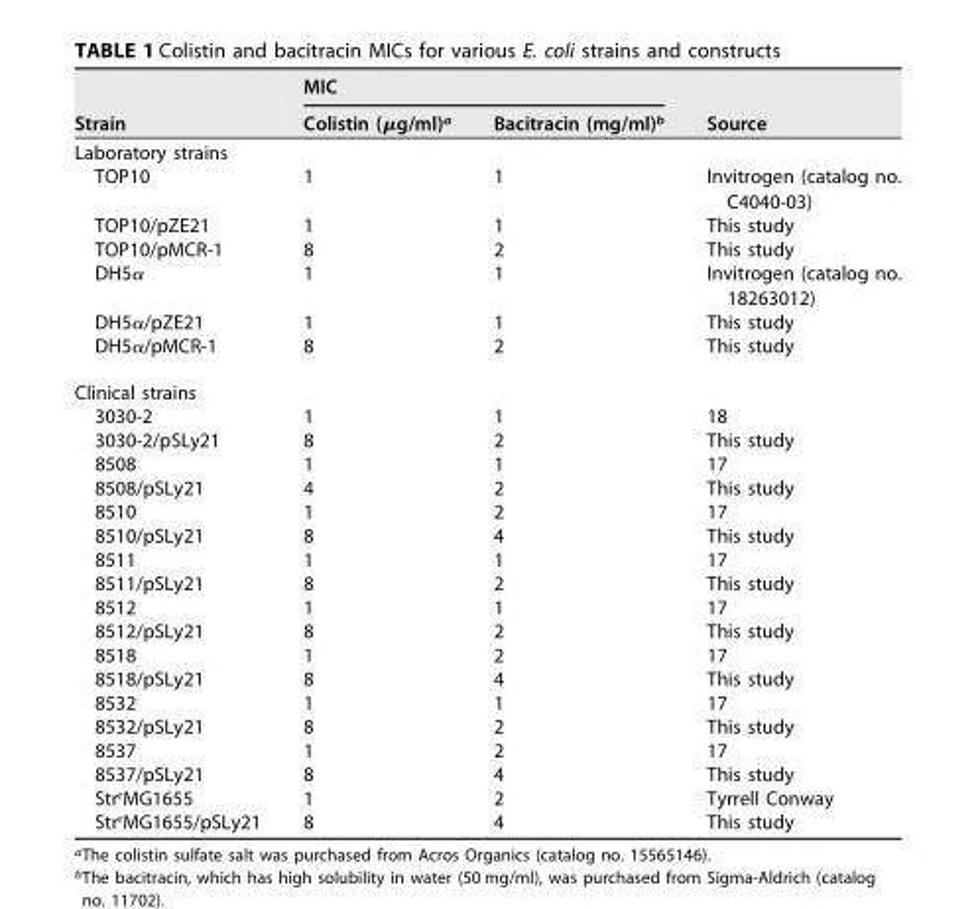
<table><thead><tr><td rowspan="2">Strain</td><td colspan="2">MIC</td><td rowspan="2">Source</td></tr><tr><td>Colistin (µg/ml)<sup>a</sup></td><td>Bacitracin (mg/ml)<sup>b</sup></td></tr></thead><tbody><tr><td colspan="4">Laboratory strains</td></tr><tr><td>TOP10</td><td>1</td><td>1</td><td>Invitrogen (catalog no. C4040-03)</td></tr><tr><td>TOP10/pZE21</td><td>1</td><td>1</td><td>This study</td></tr><tr><td>TOP10/pMCR-1</td><td>8</td><td>2</td><td>This study</td></tr><tr><td>DH5α</td><td>1</td><td>1</td><td>Invitrogen (catalog no. 18263012)</td></tr><tr><td>DH5α/pZE21</td><td>1</td><td>1</td><td>This study</td></tr><tr><td>DH5α/pMCR-1</td><td>8</td><td>2</td><td>This study</td></tr><tr><td colspan="4">Clinical strains</td></tr><tr><td>3030-2</td><td>1</td><td>1</td><td>18</td></tr><tr><td>3030-2/pSLy21</td><td>8</td><td>2</td><td>This study</td></tr><tr><td>8508</td><td>1</td><td>1</td><td>17</td></tr><tr><td>8508/pSLy21</td><td>4</td><td>2</td><td>This study</td></tr><tr><td>8510</td><td>1</td><td>2</td><td>17</td></tr><tr><td>8510/pSLy21</td><td>8</td><td>4</td><td>This study</td></tr><tr><td>8511</td><td>1</td><td>1</td><td>17</td></tr><tr><td>8511/pSLy21</td><td>8</td><td>2</td><td>This study</td></tr><tr><td>8512</td><td>1</td><td>1</td><td>17</td></tr><tr><td>8512/pSLy21</td><td>8</td><td>2</td><td>This study</td></tr><tr><td>8518</td><td>1</td><td>2</td><td>17</td></tr><tr><td>8518/pSLy21</td><td>8</td><td>4</td><td>This study</td></tr><tr><td>8532</td><td>1</td><td>1</td><td>17</td></tr><tr><td>8532/pSLy21</td><td>8</td><td>2</td><td>This study</td></tr><tr><td>8537</td><td>1</td><td>2</td><td>17</td></tr><tr><td>8537/pSLy21</td><td>8</td><td>4</td><td>This study</td></tr><tr><td>Str<sup>r</sup>MG1655</td><td>1</td><td>2</td><td>Tyrrell Conway</td></tr><tr><td>Str<sup>r</sup>MG1655/pSLy21</td><td>8</td><td>4</td><td>This study</td></tr></tbody></table>